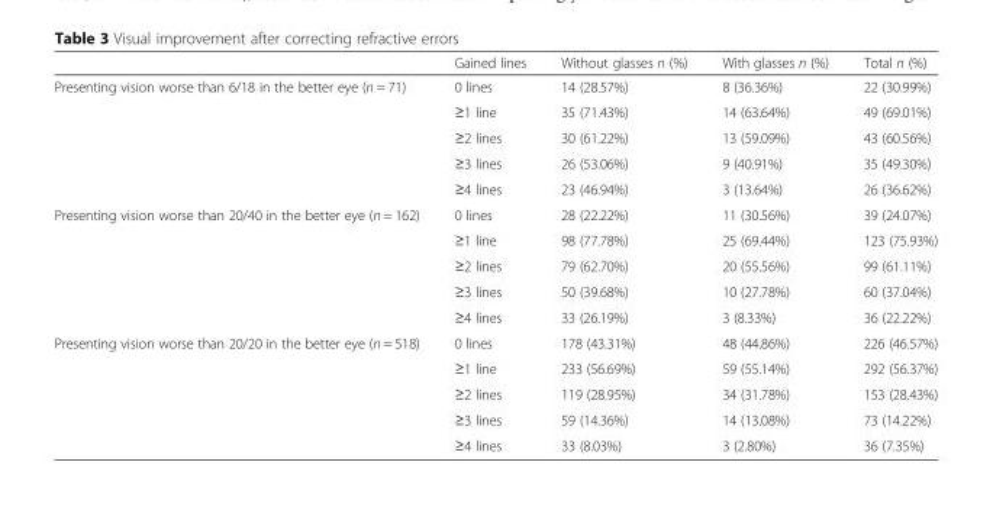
<table><thead><tr><td></td><td>Gained lines</td><td>Without glasses n (%)</td><td>With glasses n (%)</td><td>Total n (%)</td></tr></thead><tbody><tr><td rowspan="5">Presenting vision worse than 6/18 in the better eye (n = 71)</td><td>0 lines</td><td>14 (28.57%)</td><td>8 (36.36%)</td><td>22 (30.99%)</td></tr><tr><td>≥1 line</td><td>35 (71.43%)</td><td>14 (63.64%)</td><td>49 (69.01%)</td></tr><tr><td>≥2 lines</td><td>30 (61.22%)</td><td>13 (59.09%)</td><td>43 (60.56%)</td></tr><tr><td>≥3 lines</td><td>26 (53.06%)</td><td>9 (40.91%)</td><td>35 (49.30%)</td></tr><tr><td>≥4 lines</td><td>23 (46.94%)</td><td>3 (13.64%)</td><td>26 (36.62%)</td></tr><tr><td rowspan="5">Presenting vision worse than 20/40 in the better eye (n = 162)</td><td>0 lines</td><td>28 (22.22%)</td><td>11 (30.56%)</td><td>39 (24.07%)</td></tr><tr><td>≥1 line</td><td>98 (77.78%)</td><td>25 (69.44%)</td><td>123 (75.93%)</td></tr><tr><td>≥2 lines</td><td>79 (62.70%)</td><td>20 (55.56%)</td><td>99 (61.11%)</td></tr><tr><td>≥3 lines</td><td>50 (39.68%)</td><td>10 (27.78%)</td><td>60 (37.04%)</td></tr><tr><td>≥4 lines</td><td>33 (26.19%)</td><td>3 (8.33%)</td><td>36 (22.22%)</td></tr><tr><td rowspan="5">Presenting vision worse than 20/20 in the better eye (n = 518)</td><td>0 lines</td><td>178 (43.31%)</td><td>48 (44.86%)</td><td>226 (46.57%)</td></tr><tr><td>≥1 line</td><td>233 (56.69%)</td><td>59 (55.14%)</td><td>292 (56.37%)</td></tr><tr><td>≥2 lines</td><td>119 (28.95%)</td><td>34 (31.78%)</td><td>153 (28.43%)</td></tr><tr><td>≥3 lines</td><td>59 (14.36%)</td><td>14 (13.08%)</td><td>73 (14.22%)</td></tr><tr><td>≥4 lines</td><td>33 (8.03%)</td><td>3 (2.80%)</td><td>36 (7.35%)</td></tr></tbody></table>